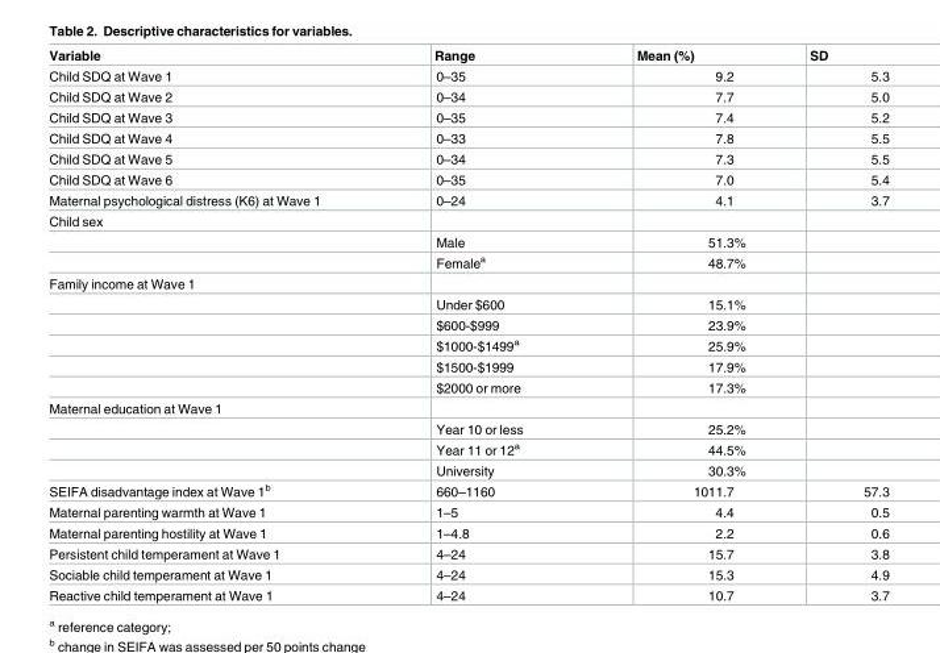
<table><thead><tr><td>Variable</td><td>Range</td><td>Mean (%)</td><td>SD</td></tr></thead><tbody><tr><td>Child SDQ at Wave 1</td><td>0–35</td><td>9.2</td><td>5.3</td></tr><tr><td>Child SDQ at Wave 2</td><td>0–34</td><td>7.7</td><td>5.0</td></tr><tr><td>Child SDQ at Wave 3</td><td>0–35</td><td>7.4</td><td>5.2</td></tr><tr><td>Child SDQ at Wave 4</td><td>0–33</td><td>7.8</td><td>5.5</td></tr><tr><td>Child SDQ at Wave 5</td><td>0–34</td><td>7.3</td><td>5.5</td></tr><tr><td>Child SDQ at Wave 6</td><td>0–35</td><td>7.0</td><td>5.4</td></tr><tr><td>Maternal psychological distress (K6) at Wave 1</td><td>0–24</td><td>4.1</td><td>3.7</td></tr><tr><td colspan="4">Child sex</td></tr><tr><td></td><td>Male</td><td>51.3%</td><td></td></tr><tr><td></td><td>Female<sup>a</sup></td><td>48.7%</td><td></td></tr><tr><td colspan="4">Family income at Wave 1</td></tr><tr><td></td><td>Under $600</td><td>15.1%</td><td></td></tr><tr><td></td><td>$600-$999</td><td>23.9%</td><td></td></tr><tr><td></td><td>$1000-$1499<sup>a</sup></td><td>25.9%</td><td></td></tr><tr><td></td><td>$1500-$1999</td><td>17.9%</td><td></td></tr><tr><td></td><td>$2000 or more</td><td>17.3%</td><td></td></tr><tr><td colspan="4">Maternal education at Wave 1</td></tr><tr><td></td><td>Year 10 or less</td><td>25.2%</td><td></td></tr><tr><td></td><td>Year 11 or 12<sup>a</sup></td><td>44.5%</td><td></td></tr><tr><td></td><td>University</td><td>30.3%</td><td></td></tr><tr><td>SEIFA disadvantage index at Wave 1<sup>b</sup></td><td>660–1160</td><td>1011.7</td><td>57.3</td></tr><tr><td>Maternal parenting warmth at Wave 1</td><td>1–5</td><td>4.4</td><td>0.5</td></tr><tr><td>Maternal parenting hostility at Wave 1</td><td>1–4.8</td><td>2.2</td><td>0.6</td></tr><tr><td>Persistent child temperament at Wave 1</td><td>4–24</td><td>15.7</td><td>3.8</td></tr><tr><td>Sociable child temperament at Wave 1</td><td>4–24</td><td>15.3</td><td>4.9</td></tr><tr><td>Reactive child temperament at Wave 1</td><td>4–24</td><td>10.7</td><td>3.7</td></tr></tbody></table>